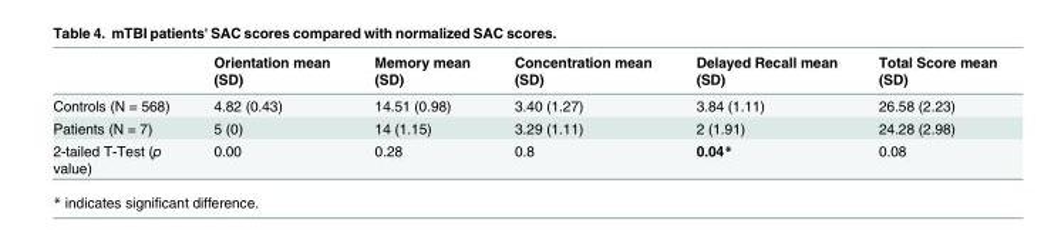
<table><thead><tr><td></td><td>Orientation mean (SD)</td><td>Memory mean (SD)</td><td>Concentration mean (SD)</td><td>Delayed Recall mean (SD)</td><td>Total Score mean (SD)</td></tr></thead><tbody><tr><td>Controls (N = 568)</td><td>4.82 (0.43)</td><td>14.51 (0.98)</td><td>3.40 (1.27)</td><td>3.84 (1.11)</td><td>26.58 (2.23)</td></tr><tr><td>Patients (N = 7)</td><td>5 (0)</td><td>14 (1.15)</td><td>3.29 (1.11)</td><td>2 (1.91)</td><td>24.28 (2.98)</td></tr><tr><td>2-tailed T-Test (p value)</td><td>0.00</td><td>0.28</td><td>0.8</td><td>0.04*</td><td>0.08</td></tr></tbody></table>